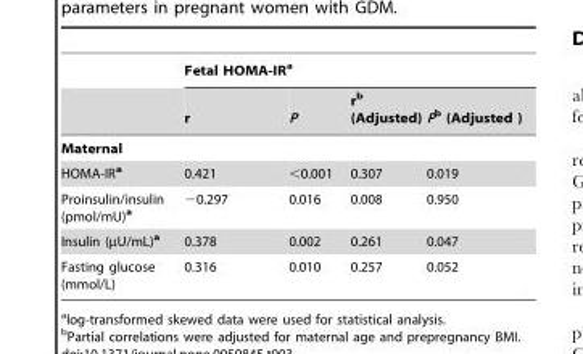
<table><thead><tr><td rowspan="2"></td><td colspan="4">Fetal HOMA-IR<sup>a</sup></td></tr><tr><td>r</td><td>P</td><td>r<sup>b</sup> (Adjusted)</td><td>Pb (Adjusted )</td></tr></thead><tbody><tr><td colspan="5">Maternal</td></tr><tr><td>HOMA-IR<sup>a</sup></td><td>0.421</td><td>&lt;0.001</td><td>0.307</td><td>0.019</td></tr><tr><td>Proinsulin/insulin (pmol/mU)<sup>a</sup></td><td>−0.297</td><td>0.016</td><td>0.008</td><td>0.950</td></tr><tr><td>Insulin (µU/mL)<sup>a</sup></td><td>0.378</td><td>0.002</td><td>0.261</td><td>0.047</td></tr><tr><td>Fasting glucose (mmol/L)</td><td>0.316</td><td>0.010</td><td>0.257</td><td>0.052</td></tr></tbody></table>